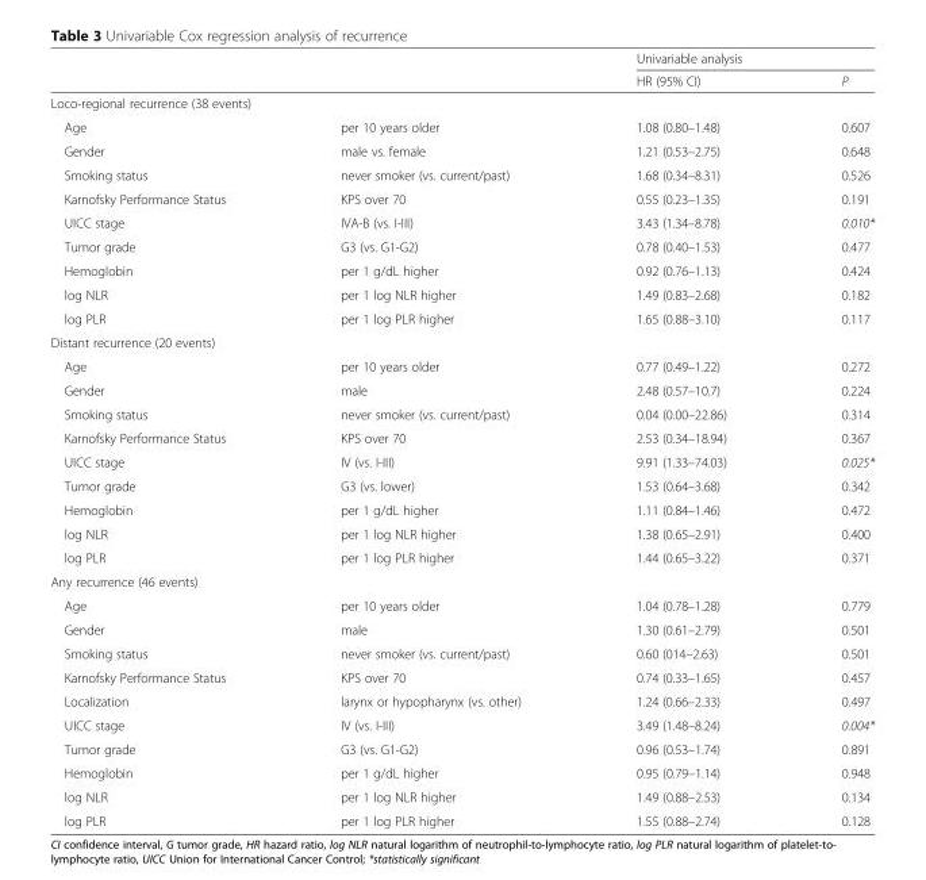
<table><thead><tr><td rowspan="2"></td><td rowspan="2"></td><td colspan="2">Univariable analysis</td></tr><tr><td>HR (95% CI)</td><td>P</td></tr></thead><tbody><tr><td colspan="4">Loco-regional recurrence (38 events)</td></tr><tr><td>Age</td><td>per 10 years older</td><td>1.08 (0.80–1.48)</td><td>0.607</td></tr><tr><td>Gender</td><td>male vs. female</td><td>1.21 (0.53–2.75)</td><td>0.648</td></tr><tr><td>Smoking status</td><td>never smoker (vs. current/past)</td><td>1.68 (0.34–8.31)</td><td>0.526</td></tr><tr><td>Karnofsky Performance Status</td><td>KPS over 70</td><td>0.55 (0.23–1.35)</td><td>0.191</td></tr><tr><td>UICC stage</td><td>IVA-B (vs. I-III)</td><td>3.43 (1.34–8.78)</td><td>0.010*</td></tr><tr><td>Tumor grade</td><td>G3 (vs. G1-G2)</td><td>0.78 (0.40–1.53)</td><td>0.477</td></tr><tr><td>Hemoglobin</td><td>per 1 g/dL higher</td><td>0.92 (0.76–1.13)</td><td>0.424</td></tr><tr><td>log NLR</td><td>per 1 log NLR higher</td><td>1.49 (0.83–2.68)</td><td>0.182</td></tr><tr><td>log PLR</td><td>per 1 log PLR higher</td><td>1.65 (0.88–3.10)</td><td>0.117</td></tr><tr><td colspan="4">Distant recurrence (20 events)</td></tr><tr><td>Age</td><td>per 10 years older</td><td>0.77 (0.49–1.22)</td><td>0.272</td></tr><tr><td>Gender</td><td>male</td><td>2.48 (0.57–10.7)</td><td>0.224</td></tr><tr><td>Smoking status</td><td>never smoker (vs. current/past)</td><td>0.04 (0.00–22.86)</td><td>0.314</td></tr><tr><td>Karnofsky Performance Status</td><td>KPS over 70</td><td>2.53 (0.34–18.94)</td><td>0.367</td></tr><tr><td>UICC stage</td><td>IV (vs. I-III)</td><td>9.91 (1.33–74.03)</td><td>0.025*</td></tr><tr><td>Tumor grade</td><td>G3 (vs. lower)</td><td>1.53 (0.64–3.68)</td><td>0.342</td></tr><tr><td>Hemoglobin</td><td>per 1 g/dL higher</td><td>1.11 (0.84–1.46)</td><td>0.472</td></tr><tr><td>log NLR</td><td>per 1 log NLR higher</td><td>1.38 (0.65–2.91)</td><td>0.400</td></tr><tr><td>log PLR</td><td>per 1 log PLR higher</td><td>1.44 (0.65–3.22)</td><td>0.371</td></tr><tr><td colspan="4">Any recurrence (46 events)</td></tr><tr><td>Age</td><td>per 10 years older</td><td>1.04 (0.78–1.28)</td><td>0.779</td></tr><tr><td>Gender</td><td>male</td><td>1.30 (0.61–2.79)</td><td>0.501</td></tr><tr><td>Smoking status</td><td>never smoker (vs. current/past)</td><td>0.60 (014–2.63)</td><td>0.501</td></tr><tr><td>Karnofsky Performance Status</td><td>KPS over 70</td><td>0.74 (0.33–1.65)</td><td>0.457</td></tr><tr><td>Localization</td><td>larynx or hypopharynx (vs. other)</td><td>1.24 (0.66–2.33)</td><td>0.497</td></tr><tr><td>UICC stage</td><td>IV (vs. I-III)</td><td>3.49 (1.48–8.24)</td><td>0.004*</td></tr><tr><td>Tumor grade</td><td>G3 (vs. G1-G2)</td><td>0.96 (0.53–1.74)</td><td>0.891</td></tr><tr><td>Hemoglobin</td><td>per 1 g/dL higher</td><td>0.95 (0.79–1.14)</td><td>0.948</td></tr><tr><td>log NLR</td><td>per 1 log NLR higher</td><td>1.49 (0.88–2.53)</td><td>0.134</td></tr><tr><td>log PLR</td><td>per 1 log PLR higher</td><td>1.55 (0.88–2.74)</td><td>0.128</td></tr></tbody></table>